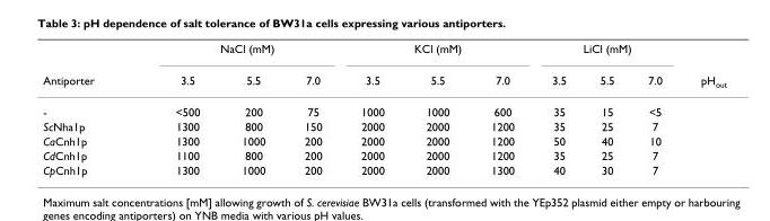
<table><thead><tr><td rowspan="2">Antiporter</td><td colspan="3">NaCl (mM)</td><td colspan="3">KCl (mM)</td><td colspan="3">LiCl (mM)</td><td rowspan="2">pH<sub>out</sub></td></tr><tr><td>3.5</td><td>5.5</td><td>7.0</td><td>3.5</td><td>5.5</td><td>7.0</td><td>3.5</td><td>5.5</td><td>7.0</td></tr></thead><tbody><tr><td>-</td><td>&lt;500</td><td>200</td><td>75</td><td>1000</td><td>1000</td><td>600</td><td>35</td><td>15</td><td>&lt;5</td><td></td></tr><tr><td>ScNha1p</td><td>1300</td><td>800</td><td>150</td><td>2000</td><td>2000</td><td>1200</td><td>35</td><td>25</td><td>7</td><td></td></tr><tr><td>CaCnh1p</td><td>1300</td><td>1000</td><td>200</td><td>2000</td><td>2000</td><td>1200</td><td>50</td><td>40</td><td>10</td><td></td></tr><tr><td>CdCnh1p</td><td>1100</td><td>800</td><td>200</td><td>2000</td><td>2000</td><td>1200</td><td>35</td><td>25</td><td>7</td><td></td></tr><tr><td>CpCnh1p</td><td>1300</td><td>1000</td><td>200</td><td>2000</td><td>2000</td><td>1300</td><td>40</td><td>30</td><td>7</td><td></td></tr></tbody></table>